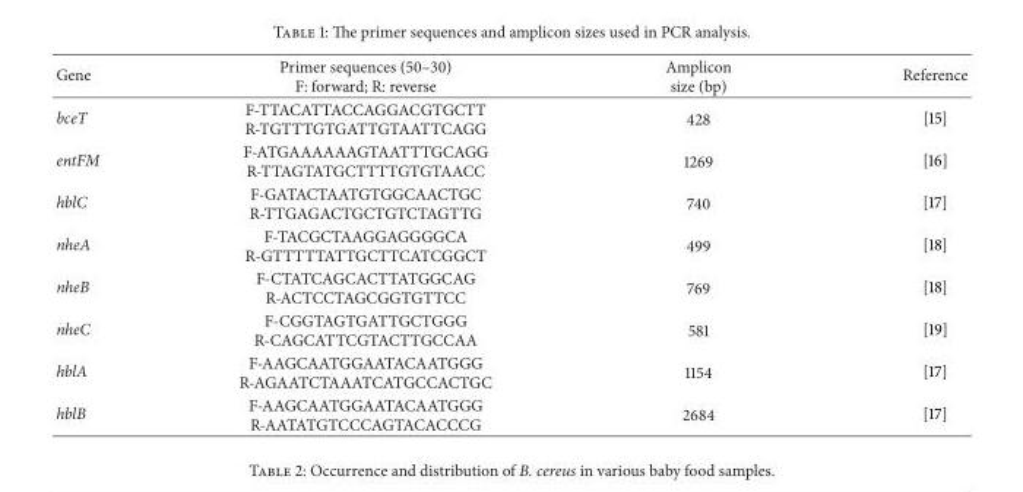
<table><thead><tr><td>Gene</td><td>Primer sequences (50–30) F: forward; R: reverse</td><td>Amplicon size (bp)</td><td>Reference</td></tr></thead><tbody><tr><td>bceT</td><td>F-TTACATTACCAGGACGTGCTT R-TGTTTGTGATTGTAATTCAGG</td><td>428</td><td>[15]</td></tr><tr><td>entFM</td><td>F-ATGAAAAAAGTAATTTGCAGG R-TTAGTATGCTTTTGTGTAACC</td><td>1269</td><td>[16]</td></tr><tr><td>hblC</td><td>F-GATACTAATGTGGCAACTGC R-TTGAGACTGCTGTCTAGTTG</td><td>740</td><td>[17]</td></tr><tr><td>nheA</td><td>F-TACGCTAAGGAGGGGCA R-GTTTTTATTGCTTCATCGGCT</td><td>499</td><td>[18]</td></tr><tr><td>nheB</td><td>F-CTATCAGCACTTATGGCAG R-ACTCCTAGCGGTGTTCC</td><td>769</td><td>[18]</td></tr><tr><td>nheC</td><td>F-CGGTAGTGATTGCTGGG R-CAGCATTCGTACTTGCCAA</td><td>581</td><td>[19]</td></tr><tr><td>hblA</td><td>F-AAGCAATGGAATACAATGGG R-AGAATCTAAATCATGCCACTGC</td><td>1154</td><td>[17]</td></tr><tr><td>hblB</td><td>F-AAGCAATGGAATACAATGGG R-AATATGTCCCAGTACACCCG</td><td>2684</td><td>[17]</td></tr></tbody></table>